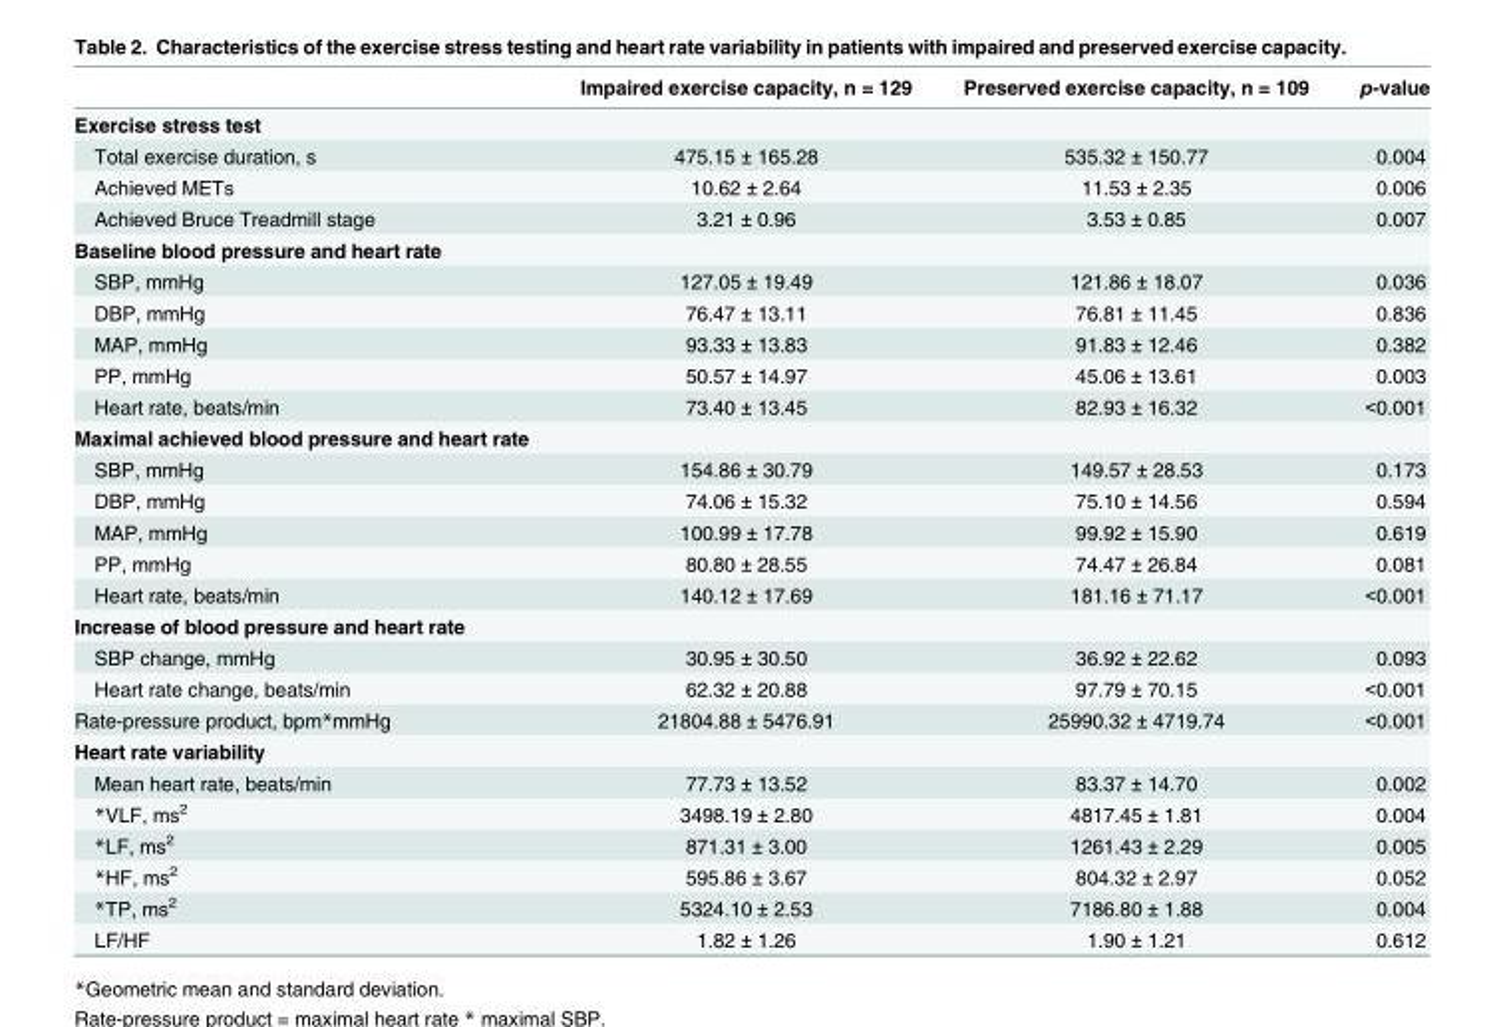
<table><thead><tr><td></td><td>Impaired exercise capacity, n = 129</td><td>Preserved exercise capacity, n = 109</td><td>p-value</td></tr></thead><tbody><tr><td colspan="4">Exercise stress test</td></tr><tr><td>Total exercise duration, s</td><td>475.15 ± 165.28</td><td>535.32 ± 150.77</td><td>0.004</td></tr><tr><td>Achieved METs</td><td>10.62 ± 2.64</td><td>11.53 ± 2.35</td><td>0.006</td></tr><tr><td>Achieved Bruce Treadmill stage</td><td>3.21 ± 0.96</td><td>3.53 ± 0.85</td><td>0.007</td></tr><tr><td colspan="4">Baseline blood pressure and heart rate</td></tr><tr><td>SBP, mmHg</td><td>127.05 ± 19.49</td><td>121.86 ± 18.07</td><td>0.036</td></tr><tr><td>DBP, mmHg</td><td>76.47 ± 13.11</td><td>76.81 ± 11.45</td><td>0.836</td></tr><tr><td>MAP, mmHg</td><td>93.33 ± 13.83</td><td>91.83 ± 12.46</td><td>0.382</td></tr><tr><td>PP, mmHg</td><td>50.57 ± 14.97</td><td>45.06 ± 13.61</td><td>0.003</td></tr><tr><td>Heart rate, beats/min</td><td>73.40 ± 13.45</td><td>82.93 ± 16.32</td><td>&lt;0.001</td></tr><tr><td colspan="4">Maximal achieved blood pressure and heart rate</td></tr><tr><td>SBP, mmHg</td><td>154.86 ± 30.79</td><td>149.57 ± 28.53</td><td>0.173</td></tr><tr><td>DBP, mmHg</td><td>74.06 ± 15.32</td><td>75.10 ± 14.56</td><td>0.594</td></tr><tr><td>MAP, mmHg</td><td>100.99 ± 17.78</td><td>99.92 ± 15.90</td><td>0.619</td></tr><tr><td>PP, mmHg</td><td>80.80 ± 28.55</td><td>74.47 ± 26.84</td><td>0.081</td></tr><tr><td>Heart rate, beats/min</td><td>140.12 ± 17.69</td><td>181.16 ± 71.17</td><td>&lt;0.001</td></tr><tr><td colspan="4">Increase of blood pressure and heart rate</td></tr><tr><td>SBP change, mmHg</td><td>30.95 ± 30.50</td><td>36.92 ± 22.62</td><td>0.093</td></tr><tr><td>Heart rate change, beats/min</td><td>62.32 ± 20.88</td><td>97.79 ± 70.15</td><td>&lt;0.001</td></tr><tr><td>Rate-pressure product, bpm*mmHg</td><td>21804.88 ± 5476.91</td><td>25990.32 ± 4719.74</td><td>&lt;0.001</td></tr><tr><td colspan="4">Heart rate variability</td></tr><tr><td>Mean heart rate, beats/min</td><td>77.73 ± 13.52</td><td>83.37 ± 14.70</td><td>0.002</td></tr><tr><td>*VLF, ms<sup>2</sup></td><td>3498.19 ± 2.80</td><td>4817.45 ± 1.81</td><td>0.004</td></tr><tr><td>*LF, ms<sup>2</sup></td><td>871.31 ± 3.00</td><td>1261.43 ± 2.29</td><td>0.005</td></tr><tr><td>*HF, ms<sup>2</sup></td><td>595.86 ± 3.67</td><td>804.32 ± 2.97</td><td>0.052</td></tr><tr><td>*TP, ms<sup>2</sup></td><td>5324.10 ± 2.53</td><td>7186.80 ± 1.88</td><td>0.004</td></tr><tr><td>LF/HF</td><td>1.82 ± 1.26</td><td>1.90 ± 1.21</td><td>0.612</td></tr></tbody></table>